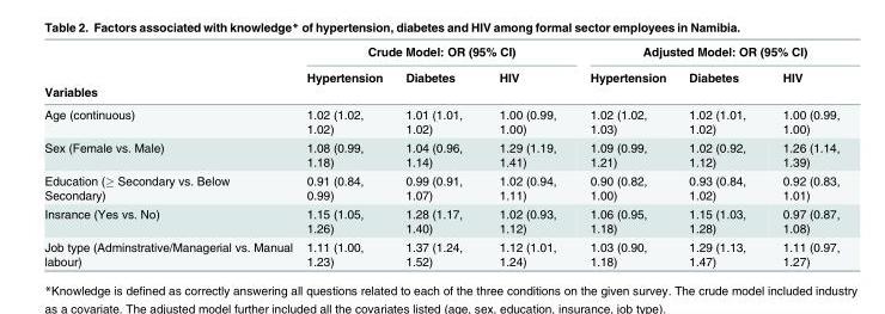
<table><thead><tr><td rowspan="3">Variables</td><td colspan="3">Crude Model: OR (95% CI)</td><td colspan="3">Adjusted Model: OR (95% CI)</td></tr><tr><td rowspan="2">Hypertension</td><td rowspan="2">Diabetes</td><td rowspan="2">HIV</td><td rowspan="2">Hypertension</td><td rowspan="2">Diabetes</td><td rowspan="2">HIV</td></tr><tr></tr></thead><tbody><tr><td>Age (continuous)</td><td>1.02 (1.02, 1.02)</td><td>1.01 (1.01, 1.02)</td><td>1.00 (0.99, 1.00)</td><td>1.02 (1.02, 1.03)</td><td>1.02 (1.01, 1.02)</td><td>1.00 (0.99, 1.00)</td></tr><tr><td>Sex (Female vs. Male)</td><td>1.08 (0.99, 1.18)</td><td>1.04 (0.96, 1.14)</td><td>1.29 (1.19, 1.41)</td><td>1.09 (0.99, 1.21)</td><td>1.02 (0.92, 1.12)</td><td>1.26 (1.14, 1.39)</td></tr><tr><td>Education (≥ Secondary vs. Below Secondary)</td><td>0.91 (0.84, 0.99)</td><td>0.99 (0.91, 1.07)</td><td>1.02 (0.94, 1.11)</td><td>0.90 (0.82, 1.00)</td><td>0.93 (0.84, 1.02)</td><td>0.92 (0.83, 1.01)</td></tr><tr><td>Insrance (Yes vs. No)</td><td>1.15 (1.05, 1.26)</td><td>1.28 (1.17, 1.40)</td><td>1.02 (0.93, 1.12)</td><td>1.06 (0.95, 1.18)</td><td>1.15 (1.03, 1.28)</td><td>0.97 (0.87, 1.08)</td></tr><tr><td>Job type (Adminstrative/Managerial vs. Manual labour)</td><td>1.11 (1.00, 1.23)</td><td>1.37 (1.24, 1.52)</td><td>1.12 (1.01, 1.24)</td><td>1.03 (0.90, 1.18)</td><td>1.29 (1.13, 1.47)</td><td>1.11 (0.97, 1.27)</td></tr></tbody></table>